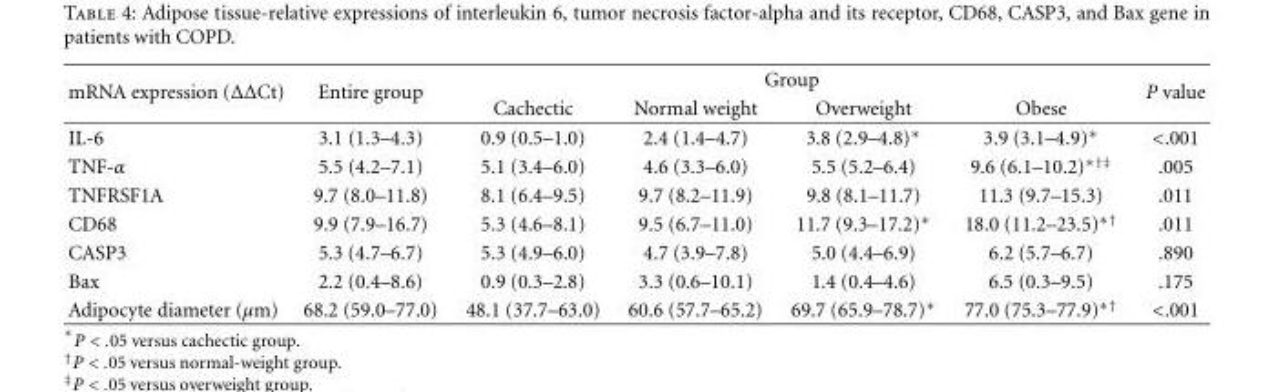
<table><thead><tr><td rowspan="2">mRNA expression (ΔΔCt)</td><td rowspan="2">Entire group</td><td colspan="4">Group</td><td rowspan="2">P value</td></tr><tr><td>Cachectic</td><td>Normal weight</td><td>Overweight</td><td>Obese</td></tr></thead><tbody><tr><td>IL-6</td><td>3.1 (1.3–4.3)</td><td>0.9 (0.5–1.0)</td><td>2.4 (1.4–4.7)</td><td>3.8 (2.9–4.8)∗</td><td>3.9 (3.1–4.9)∗</td><td>&lt;.001</td></tr><tr><td>TNF-α</td><td>5.5 (4.2–7.1)</td><td>5.1 (3.4–6.0)</td><td>4.6 (3.3–6.0)</td><td>5.5 (5.2–6.4)</td><td>9.6 (6.1–10.2)<sup>∗†‡</sup></td><td>.005</td></tr><tr><td>TNFRSF1A</td><td>9.7 (8.0–11.8)</td><td>8.1 (6.4–9.5)</td><td>9.7 (8.2–11.9)</td><td>9.8 (8.1–11.7)</td><td>11.3 (9.7–15.3)</td><td>.011</td></tr><tr><td>CD68</td><td>9.9 (7.9–16.7)</td><td>5.3 (4.6–8.1)</td><td>9.5 (6.7–11.0)</td><td>11.7 (9.3–17.2)∗</td><td>18.0 (11.2–23.5)<sup>∗†</sup></td><td>.011</td></tr><tr><td>CASP3</td><td>5.3 (4.7–6.7)</td><td>5.3 (4.9–6.0)</td><td>4.7 (3.9–7.8)</td><td>5.0 (4.4–6.9)</td><td>6.2 (5.7–6.7)</td><td>.890</td></tr><tr><td>Bax</td><td>2.2 (0.4–8.6)</td><td>0.9 (0.3–2.8)</td><td>3.3 (0.6–10.1)</td><td>1.4 (0.4–4.6)</td><td>6.5 (0.3–9.5)</td><td>.175</td></tr><tr><td>Adipocyte diameter (μm)</td><td>68.2 (59.0–77.0)</td><td>48.1 (37.7–63.0)</td><td>60.6 (57.7–65.2)</td><td>69.7 (65.9–78.7)∗</td><td>77.0 (75.3–77.9)<sup>∗†</sup></td><td>&lt;.001</td></tr></tbody></table>